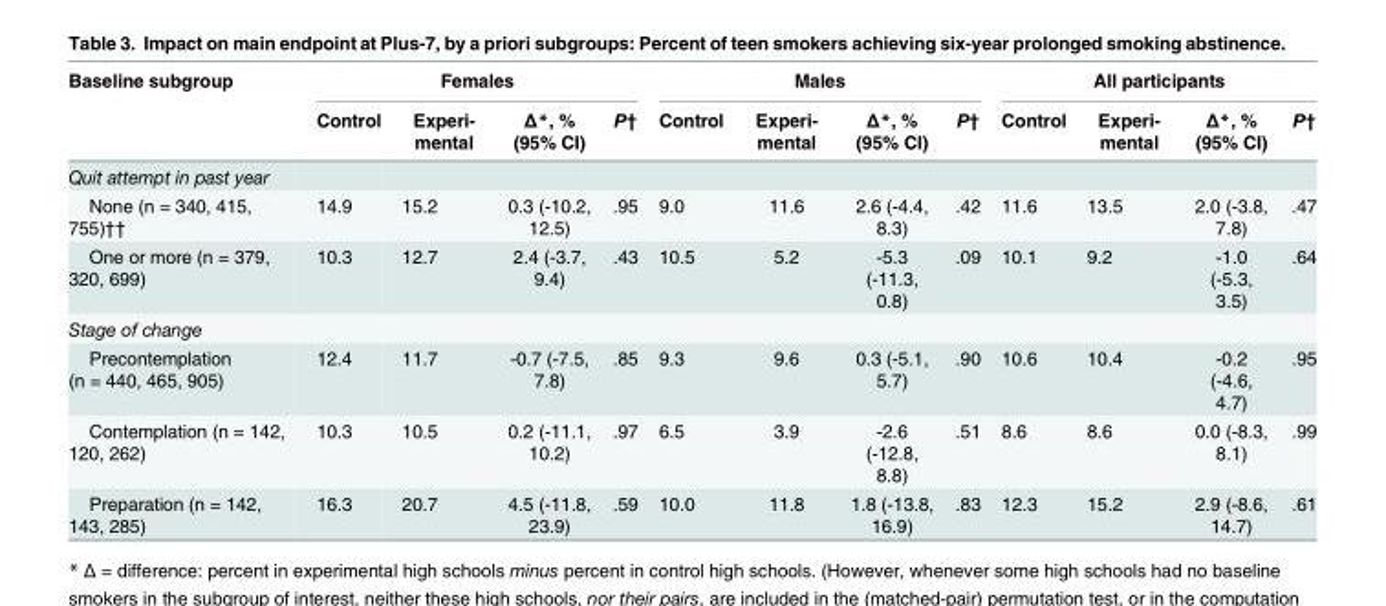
<table><thead><tr><td rowspan="2">Baseline subgroup</td><td colspan="4">Females</td><td colspan="4">Males</td><td colspan="4">All participants</td></tr><tr><td>Control</td><td>Experi- mental</td><td>Δ*, % (95% CI)</td><td>P†</td><td>Control</td><td>Experi- mental</td><td>Δ*, % (95% CI)</td><td>P†</td><td>Control</td><td>Experi- mental</td><td>Δ*, % (95% CI)</td><td>P†</td></tr></thead><tbody><tr><td colspan="13">Quit attempt in past year</td></tr><tr><td>None (n = 340, 415, 755)††</td><td>14.9</td><td>15.2</td><td>0.3 (-10.2, 12.5)</td><td>.95</td><td>9.0</td><td>11.6</td><td>2.6 (-4.4, 8.3)</td><td>.42</td><td>11.6</td><td>13.5</td><td>2.0 (-3.8, 7.8)</td><td>.47</td></tr><tr><td>One or more (n = 379, 320, 699)</td><td>10.3</td><td>12.7</td><td>2.4 (-3.7, 9.4)</td><td>.43</td><td>10.5</td><td>5.2</td><td>-5.3 (-11.3, 0.8)</td><td>.09</td><td>10.1</td><td>9.2</td><td>-1.0 (-5.3, 3.5)</td><td>.64</td></tr><tr><td colspan="13">Stage of change</td></tr><tr><td>Precontemplation (n = 440, 465, 905)</td><td>12.4</td><td>11.7</td><td>-0.7 (-7.5, 7.8)</td><td>.85</td><td>9.3</td><td>9.6</td><td>0.3 (-5.1, 5.7)</td><td>.90</td><td>10.6</td><td>10.4</td><td>-0.2 (-4.6, 4.7)</td><td>.95</td></tr><tr><td>Contemplation (n = 142, 120, 262)</td><td>10.3</td><td>10.5</td><td>0.2 (-11.1, 10.2)</td><td>.97</td><td>6.5</td><td>3.9</td><td>-2.6 (-12.8, 8.8)</td><td>.51</td><td>8.6</td><td>8.6</td><td>0.0 (-8.3, 8.1)</td><td>.99</td></tr><tr><td>Preparation (n = 142, 143, 285)</td><td>16.3</td><td>20.7</td><td>4.5 (-11.8, 23.9)</td><td>.59</td><td>10.0</td><td>11.8</td><td>1.8 (-13.8, 16.9)</td><td>.83</td><td>12.3</td><td>15.2</td><td>2.9 (-8.6, 14.7)</td><td>.61</td></tr></tbody></table>